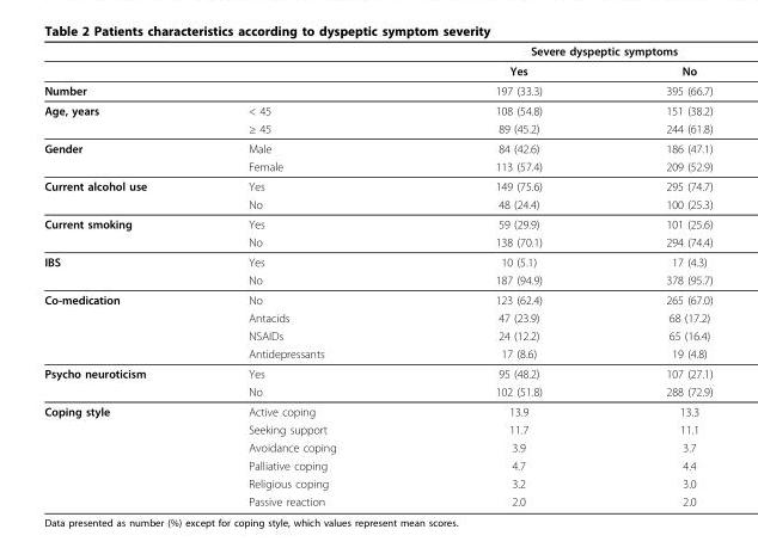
<table><thead><tr><td rowspan="2"></td><td rowspan="2"></td><td colspan="2">Severe dyspeptic symptoms</td></tr><tr><td>Yes</td><td>No</td></tr></thead><tbody><tr><td>Number</td><td></td><td>197 (33.3)</td><td>395 (66.7)</td></tr><tr><td rowspan="2">Age, years</td><td>&lt; 45</td><td>108 (54.8)</td><td>151 (38.2)</td></tr><tr><td>≥ 45</td><td>89 (45.2)</td><td>244 (61.8)</td></tr><tr><td rowspan="2">Gender</td><td>Male</td><td>84 (42.6)</td><td>186 (47.1)</td></tr><tr><td>Female</td><td>113 (57.4)</td><td>209 (52.9)</td></tr><tr><td rowspan="2">Current alcohol use</td><td>Yes</td><td>149 (75.6)</td><td>295 (74.7)</td></tr><tr><td>No</td><td>48 (24.4)</td><td>100 (25.3)</td></tr><tr><td rowspan="2">Current smoking</td><td>Yes</td><td>59 (29.9)</td><td>101 (25.6)</td></tr><tr><td>No</td><td>138 (70.1)</td><td>294 (74.4)</td></tr><tr><td rowspan="2">IBS</td><td>Yes</td><td>10 (5.1)</td><td>17 (4.3)</td></tr><tr><td>No</td><td>187 (94.9)</td><td>378 (95.7)</td></tr><tr><td rowspan="4">Co-medication</td><td>No</td><td>123 (62.4)</td><td>265 (67.0)</td></tr><tr><td>Antacids</td><td>47 (23.9)</td><td>68 (17.2)</td></tr><tr><td>NSAIDs</td><td>24 (12.2)</td><td>65 (16.4)</td></tr><tr><td>Antidepressants</td><td>17 (8.6)</td><td>19 (4.8)</td></tr><tr><td rowspan="2">Psycho neuroticism</td><td>Yes</td><td>95 (48.2)</td><td>107 (27.1)</td></tr><tr><td>No</td><td>102 (51.8)</td><td>288 (72.9)</td></tr><tr><td rowspan="6">Coping style</td><td>Active coping</td><td>13.9</td><td>13.3</td></tr><tr><td>Seeking support</td><td>11.7</td><td>11.1</td></tr><tr><td>Avoidance coping</td><td>3.9</td><td>3.7</td></tr><tr><td>Palliative coping</td><td>4.7</td><td>4.4</td></tr><tr><td>Religious coping</td><td>3.2</td><td>3.0</td></tr><tr><td>Passive reaction</td><td>2.0</td><td>2.0</td></tr></tbody></table>